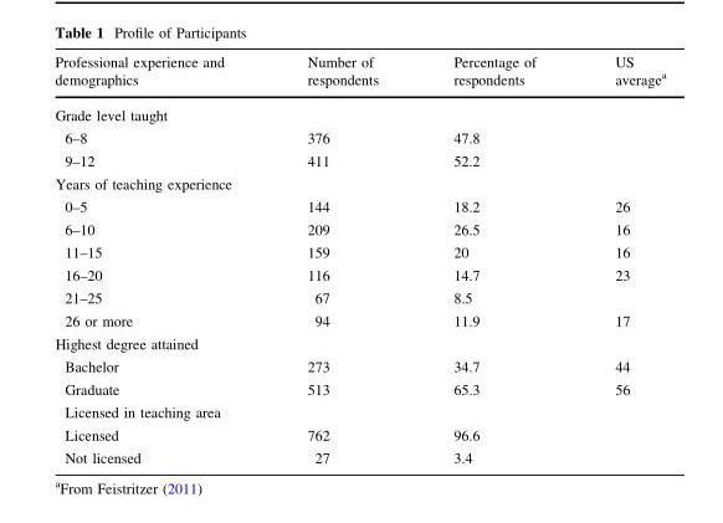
<table><thead><tr><td>Professional experience and demographics</td><td>Number of respondents</td><td>Percentage of respondents</td><td>US average<sup>a</sup></td></tr></thead><tbody><tr><td colspan="4">Grade level taught</td></tr><tr><td>6–8</td><td>376</td><td>47.8</td><td></td></tr><tr><td>9–12</td><td>411</td><td>52.2</td><td></td></tr><tr><td colspan="4">Years of teaching experience</td></tr><tr><td>0–5</td><td>144</td><td>18.2</td><td>26</td></tr><tr><td>6–10</td><td>209</td><td>26.5</td><td>16</td></tr><tr><td>11–15</td><td>159</td><td>20</td><td>16</td></tr><tr><td>16–20</td><td>116</td><td>14.7</td><td>23</td></tr><tr><td>21–25</td><td>67</td><td>8.5</td><td></td></tr><tr><td>26 or more</td><td>94</td><td>11.9</td><td>17</td></tr><tr><td colspan="4">Highest degree attained</td></tr><tr><td>Bachelor</td><td>273</td><td>34.7</td><td>44</td></tr><tr><td>Graduate</td><td>513</td><td>65.3</td><td>56</td></tr><tr><td colspan="4">Licensed in teaching area</td></tr><tr><td>Licensed</td><td>762</td><td>96.6</td><td></td></tr><tr><td>Not licensed</td><td>27</td><td>3.4</td><td></td></tr></tbody></table>